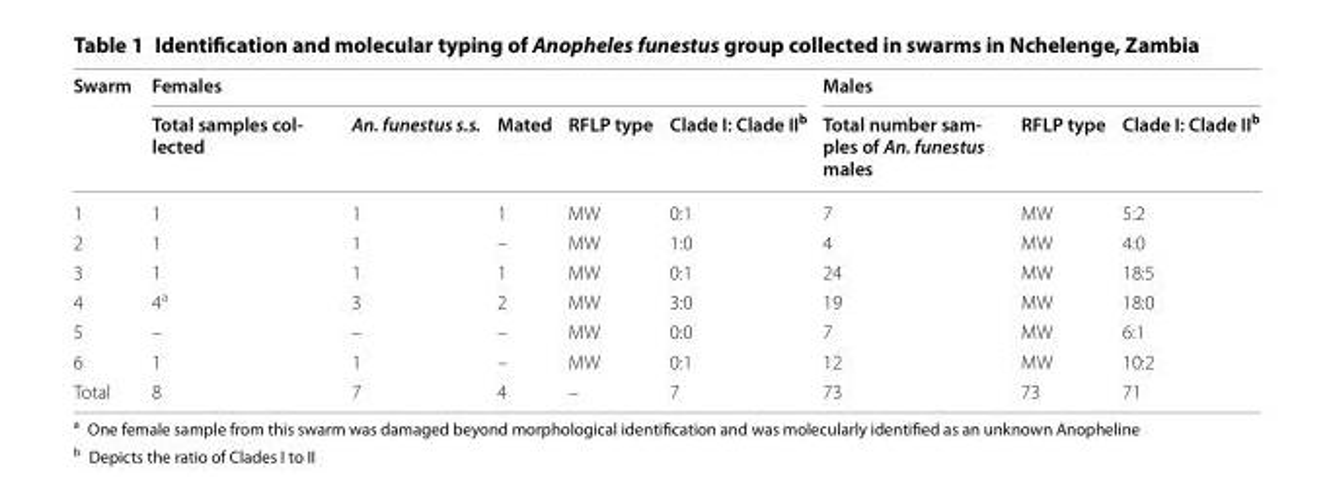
<table><thead><tr><td rowspan="2">Swarm</td><td colspan="5">Females</td><td colspan="3">Males</td></tr><tr><td>Total samples col- lected</td><td>An. funestus s.s.</td><td>Mated</td><td>RFLP type</td><td>Clade I: Clade II<sup>b</sup></td><td>Total number sam- ples of An. funestus males</td><td>RFLP type</td><td>Clade I: Clade II<sup>b</sup></td></tr></thead><tbody><tr><td>1</td><td>1</td><td>1</td><td>1</td><td>MW</td><td>0:1</td><td>7</td><td>MW</td><td>5:2</td></tr><tr><td>2</td><td>1</td><td>1</td><td>–</td><td>MW</td><td>1:0</td><td>4</td><td>MW</td><td>4:0</td></tr><tr><td>3</td><td>1</td><td>1</td><td>1</td><td>MW</td><td>0:1</td><td>24</td><td>MW</td><td>18:5</td></tr><tr><td>4</td><td>4<sup>a</sup></td><td>3</td><td>2</td><td>MW</td><td>3:0</td><td>19</td><td>MW</td><td>18:0</td></tr><tr><td>5</td><td>–</td><td>–</td><td>–</td><td>MW</td><td>0:0</td><td>7</td><td>MW</td><td>6:1</td></tr><tr><td>6</td><td>1</td><td>1</td><td>–</td><td>MW</td><td>0:1</td><td>12</td><td>MW</td><td>10:2</td></tr><tr><td>Total</td><td>8</td><td>7</td><td>4</td><td>–</td><td>7</td><td>73</td><td>73</td><td>71</td></tr></tbody></table>